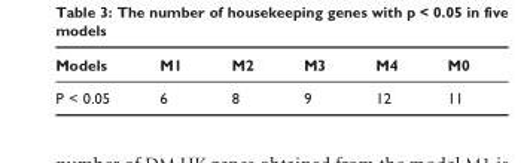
<table><thead><tr><td>Models</td><td>M1</td><td>M2</td><td>M3</td><td>M4</td><td>M0</td></tr></thead><tbody><tr><td>P &lt; 0.05</td><td>6</td><td>8</td><td>9</td><td>12</td><td>11</td></tr></tbody></table>